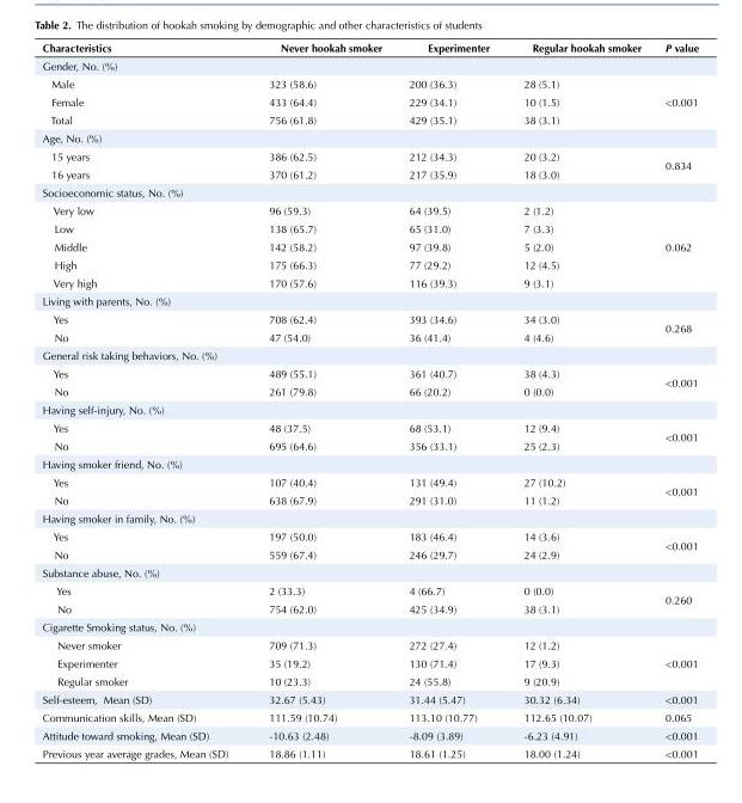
<table><tbody><tr><td>Characteristics</td><td>Never hookah smoker</td><td>Experimenter</td><td>Regular hookah smoker</td><td>P value</td></tr><tr><td colspan="5">Gender, No. (%)</td></tr><tr><td>Male</td><td>323 (58.6)</td><td>200 (36.3)</td><td>28 (5.1)</td><td rowspan="3">&lt;0.001</td></tr><tr><td>Female</td><td>433 (64.4)</td><td>229 (34.1)</td><td>10 (1.5)</td></tr><tr><td>Total</td><td>756 (61.8)</td><td>429 (35.1)</td><td>38 (3.1)</td></tr><tr><td colspan="5">Age, No. (%)</td></tr><tr><td>15 years</td><td>386 (62.5)</td><td>212 (34.3)</td><td>20 (3.2)</td><td rowspan="2">0.834</td></tr><tr><td>16 years</td><td>370 (61.2)</td><td>217 (35.9)</td><td>18 (3.0)</td></tr><tr><td colspan="5">Socioeconomic status, No. (%)</td></tr><tr><td>Very low</td><td>96 (59.3)</td><td>64 (39.5)</td><td>2 (1.2)</td><td rowspan="5">0.062</td></tr><tr><td>Low</td><td>138 (65.7)</td><td>65 (31.0)</td><td>7 (3.3)</td></tr><tr><td>Middle</td><td>142 (58.2)</td><td>97 (39.8)</td><td>5 (2.0)</td></tr><tr><td>High</td><td>175 (66.3)</td><td>77 (29.2)</td><td>12 (4.5)</td></tr><tr><td>Very high</td><td>170 (57.6)</td><td>116 (39.3)</td><td>9 (3.1)</td></tr><tr><td colspan="5">Living with parents, No. (%)</td></tr><tr><td>Yes</td><td>708 (62.4)</td><td>393 (34.6)</td><td>34 (3.0)</td><td rowspan="2">0.268</td></tr><tr><td>No</td><td>47 (54.0)</td><td>36 (41.4)</td><td>4 (4.6)</td></tr><tr><td colspan="5">General risk taking behaviors, No. (%)</td></tr><tr><td>Yes</td><td>489 (55.1)</td><td>361 (40.7)</td><td>38 (4.3)</td><td rowspan="2">&lt;0.001</td></tr><tr><td>No</td><td>261 (79.8)</td><td>66 (20.2)</td><td>0 (0.0)</td></tr><tr><td colspan="5">Having self-injury, No. (%)</td></tr><tr><td>Yes</td><td>48 (37.5)</td><td>68 (53.1)</td><td>12 (9.4)</td><td rowspan="2">&lt;0.001</td></tr><tr><td>No</td><td>695 (64.6)</td><td>356 (33.1)</td><td>25 (2.3)</td></tr><tr><td colspan="5">Having smoker friend, No. (%)</td></tr><tr><td>Yes</td><td>107 (40.4)</td><td>131 (49.4)</td><td>27 (10.2)</td><td rowspan="2">&lt;0.001</td></tr><tr><td>No</td><td>638 (67.9)</td><td>291 (31.0)</td><td>11 (1.2)</td></tr><tr><td colspan="5">Having smoker in family, No. (%)</td></tr><tr><td>Yes</td><td>197 (50.0)</td><td>183 (46.4)</td><td>14 (3.6)</td><td rowspan="2">&lt;0.001</td></tr><tr><td>No</td><td>559 (67.4)</td><td>246 (29.7)</td><td>24 (2.9)</td></tr><tr><td colspan="5">Substance abuse, No. (%)</td></tr><tr><td>Yes</td><td>2 (33.3)</td><td>4 (66.7)</td><td>0 (0.0)</td><td rowspan="2">0.260</td></tr><tr><td>No</td><td>754 (62.0)</td><td>425 (34.9)</td><td>38 (3.1)</td></tr><tr><td colspan="5">Cigarette Smoking status, No. (%)</td></tr><tr><td>Never smoker</td><td>709 (71.3)</td><td>272 (27.4)</td><td>12 (1.2)</td><td rowspan="3">&lt;0.001</td></tr><tr><td>Experimenter</td><td>35 (19.2)</td><td>130 (71.4)</td><td>17 (9.3)</td></tr><tr><td>Regular smoker</td><td>10 (23.3)</td><td>24 (55.8)</td><td>9 (20.9)</td></tr><tr><td>Self-esteem, Mean (SD)</td><td>32.67 (5.43)</td><td>31.44 (5.47)</td><td>30.32 (6.34)</td><td>&lt;0.001</td></tr><tr><td>Communication skills, Mean (SD)</td><td>111.59 (10.74)</td><td>113.10 (10.77)</td><td>112.65 (10.07)</td><td>0.065</td></tr><tr><td>Attitude toward smoking, Mean (SD)</td><td>-10.63 (2.48)</td><td>-8.09 (3.89)</td><td>-6.23 (4.91)</td><td>&lt;0.001</td></tr><tr><td>Previous year average grades, Mean (SD)</td><td>18.86 (1.11)</td><td>18.61 (1.25)</td><td>18.00 (1.24)</td><td>&lt;0.001</td></tr></tbody></table>